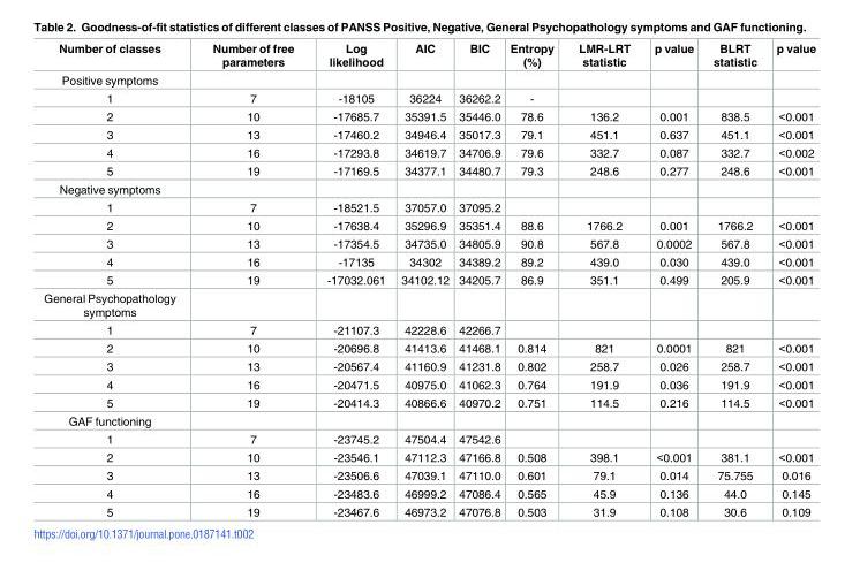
<table><thead><tr><td>Number of classes</td><td>Number of free parameters</td><td>Log likelihood</td><td>AIC</td><td>BIC</td><td>Entropy (%)</td><td>LMR-LRT statistic</td><td>p value</td><td>BLRT statistic</td><td>p value</td></tr></thead><tbody><tr><td colspan="10">Positive symptoms</td></tr><tr><td>1</td><td>7</td><td>-18105</td><td>36224</td><td>36262.2</td><td>-</td><td></td><td></td><td></td><td></td></tr><tr><td>2</td><td>10</td><td>-17685.7</td><td>35391.5</td><td>35446.0</td><td>78.6</td><td>136.2</td><td>0.001</td><td>838.5</td><td>&lt;0.001</td></tr><tr><td>3</td><td>13</td><td>-17460.2</td><td>34946.4</td><td>35017.3</td><td>79.1</td><td>451.1</td><td>0.637</td><td>451.1</td><td>&lt;0.001</td></tr><tr><td>4</td><td>16</td><td>-17293.8</td><td>34619.7</td><td>34706.9</td><td>79.6</td><td>332.7</td><td>0.087</td><td>332.7</td><td>&lt;0.002</td></tr><tr><td>5</td><td>19</td><td>-17169.5</td><td>34377.1</td><td>34480.7</td><td>79.3</td><td>248.6</td><td>0.277</td><td>248.6</td><td>&lt;0.001</td></tr><tr><td colspan="10">Negative symptoms</td></tr><tr><td>1</td><td>7</td><td>-18521.5</td><td>37057.0</td><td>37095.2</td><td></td><td></td><td></td><td></td><td></td></tr><tr><td>2</td><td>10</td><td>-17638.4</td><td>35296.9</td><td>35351.4</td><td>88.6</td><td>1766.2</td><td>0.001</td><td>1766.2</td><td>&lt;0.001</td></tr><tr><td>3</td><td>13</td><td>-17354.5</td><td>34735.0</td><td>34805.9</td><td>90.8</td><td>567.8</td><td>0.0002</td><td>567.8</td><td>&lt;0.001</td></tr><tr><td>4</td><td>16</td><td>-17135</td><td>34302</td><td>34389.2</td><td>89.2</td><td>439.0</td><td>0.030</td><td>439.0</td><td>&lt;0.001</td></tr><tr><td>5</td><td>19</td><td>-17032.061</td><td>34102.12</td><td>34205.7</td><td>86.9</td><td>351.1</td><td>0.499</td><td>205.9</td><td>&lt;0.001</td></tr><tr><td colspan="10">General Psychopathology symptoms</td></tr><tr><td>1</td><td>7</td><td>-21107.3</td><td>42228.6</td><td>42266.7</td><td></td><td></td><td></td><td></td><td></td></tr><tr><td>2</td><td>10</td><td>-20696.8</td><td>41413.6</td><td>41468.1</td><td>0.814</td><td>821</td><td>0.0001</td><td>821</td><td>&lt;0.001</td></tr><tr><td>3</td><td>13</td><td>-20567.4</td><td>41160.9</td><td>41231.8</td><td>0.802</td><td>258.7</td><td>0.026</td><td>258.7</td><td>&lt;0.001</td></tr><tr><td>4</td><td>16</td><td>-20471.5</td><td>40975.0</td><td>41062.3</td><td>0.764</td><td>191.9</td><td>0.036</td><td>191.9</td><td>&lt;0.001</td></tr><tr><td>5</td><td>19</td><td>-20414.3</td><td>40866.6</td><td>40970.2</td><td>0.751</td><td>114.5</td><td>0.216</td><td>114.5</td><td>&lt;0.001</td></tr><tr><td colspan="10">GAF functioning</td></tr><tr><td>1</td><td>7</td><td>-23745.2</td><td>47504.4</td><td>47542.6</td><td></td><td></td><td></td><td></td><td></td></tr><tr><td>2</td><td>10</td><td>-23546.1</td><td>47112.3</td><td>47166.8</td><td>0.508</td><td>398.1</td><td>&lt;0.001</td><td>381.1</td><td>&lt;0.001</td></tr><tr><td>3</td><td>13</td><td>-23506.6</td><td>47039.1</td><td>47110.0</td><td>0.601</td><td>79.1</td><td>0.014</td><td>75.755</td><td>0.016</td></tr><tr><td>4</td><td>16</td><td>-23483.6</td><td>46999.2</td><td>47086.4</td><td>0.565</td><td>45.9</td><td>0.136</td><td>44.0</td><td>0.145</td></tr><tr><td>5</td><td>19</td><td>-23467.6</td><td>46973.2</td><td>47076.8</td><td>0.503</td><td>31.9</td><td>0.108</td><td>30.6</td><td>0.109</td></tr></tbody></table>